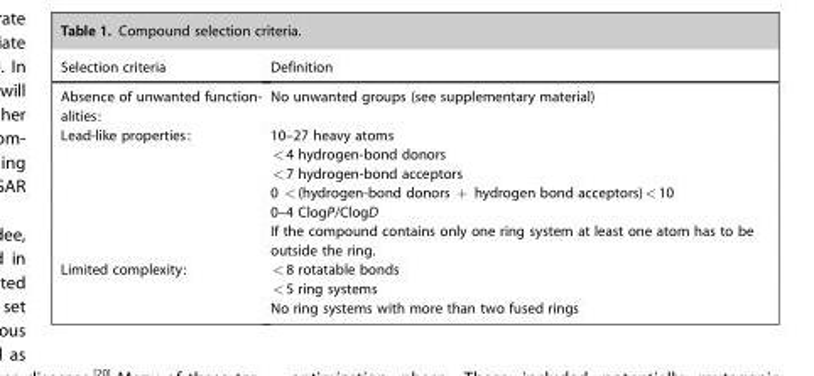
<table><thead><tr><td>Selection criteria</td><td>Definition</td></tr></thead><tbody><tr><td>Absence of unwanted function- alities:</td><td>No unwanted groups (see supplementary material)</td></tr><tr><td rowspan="6">Lead-like properties:</td><td>10–27 heavy atoms</td></tr><tr><td>&lt;4 hydrogen-bond donors</td></tr><tr><td>&lt;7 hydrogen-bond acceptors</td></tr><tr><td>0 &lt;(hydrogen-bond donors + hydrogen bond acceptors)&lt;10</td></tr><tr><td>0–4 ClogP/ClogD</td></tr><tr><td>If the compound contains only one ring system at least one atom has to be outside the ring.</td></tr><tr><td rowspan="3">Limited complexity:</td><td>&lt;8 rotatable bonds</td></tr><tr><td>&lt;5 ring systems</td></tr><tr><td>No ring systems with more than two fused rings</td></tr></tbody></table>